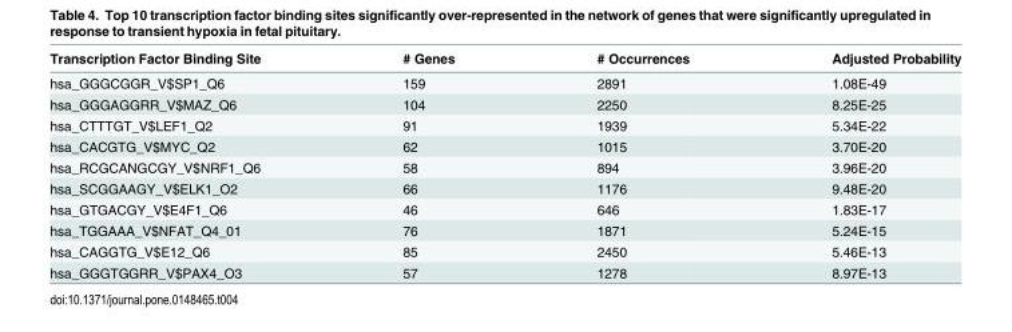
<table><thead><tr><td>Transcription Factor Binding Site</td><td># Genes</td><td># Occurrences</td><td>Adjusted Probability</td></tr></thead><tbody><tr><td>hsa_GGGCGGR_V$SP1_Q6</td><td>159</td><td>2891</td><td>1.08E-49</td></tr><tr><td>hsa_GGGAGGRR_V$MAZ_Q6</td><td>104</td><td>2250</td><td>8.25E-25</td></tr><tr><td>hsa_CTTTGT_V$LEF1_Q2</td><td>91</td><td>1939</td><td>5.34E-22</td></tr><tr><td>hsa_CACGTG_V$MYC_Q2</td><td>62</td><td>1015</td><td>3.70E-20</td></tr><tr><td>hsa_RCGCANGCGY_V$NRF1_Q6</td><td>58</td><td>894</td><td>3.96E-20</td></tr><tr><td>hsa_SCGGAAGY_V$ELK1_O2</td><td>66</td><td>1176</td><td>9.48E-20</td></tr><tr><td>hsa_GTGACGY_V$E4F1_Q6</td><td>46</td><td>646</td><td>1.83E-17</td></tr><tr><td>hsa_TGGAAA_V$NFAT_Q4_01</td><td>76</td><td>1871</td><td>5.24E-15</td></tr><tr><td>hsa_CAGGTG_V$E12_Q6</td><td>85</td><td>2450</td><td>5.46E-13</td></tr><tr><td>hsa_GGGTGGRR_V$PAX4_O3</td><td>57</td><td>1278</td><td>8.97E-13</td></tr></tbody></table>